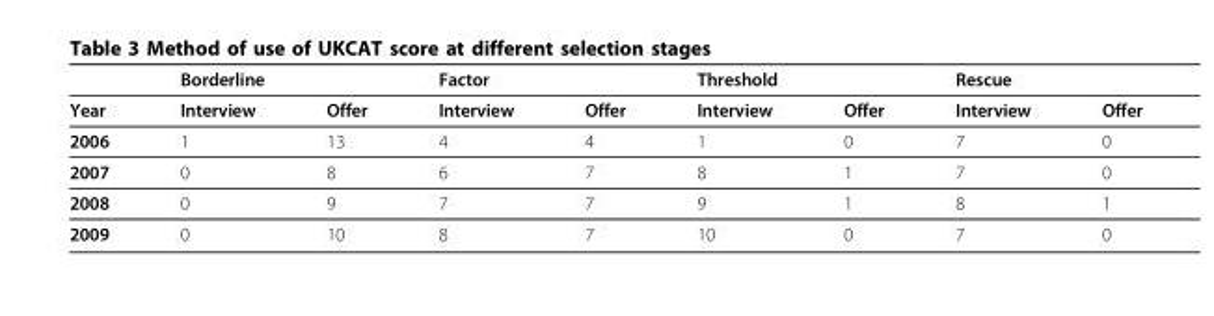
<table><thead><tr><td rowspan="2">Year</td><td colspan="2">Borderline</td><td rowspan="2">Factor Interview</td><td rowspan="2">Offer</td><td colspan="2">Threshold</td><td colspan="2">Rescue</td></tr><tr><td>Interview</td><td>Offer</td><td>Interview</td><td>Offer</td><td>Interview</td><td>Offer</td></tr></thead><tbody><tr><td>2006</td><td>1</td><td>13</td><td>4</td><td>4</td><td>1</td><td>0</td><td>7</td><td>0</td></tr><tr><td>2007</td><td>0</td><td>8</td><td>6</td><td>7</td><td>8</td><td>1</td><td>7</td><td>0</td></tr><tr><td>2008</td><td>0</td><td>9</td><td>7</td><td>7</td><td>9</td><td>1</td><td>8</td><td>1</td></tr><tr><td>2009</td><td>0</td><td>10</td><td>8</td><td>7</td><td>10</td><td>0</td><td>7</td><td>0</td></tr></tbody></table>